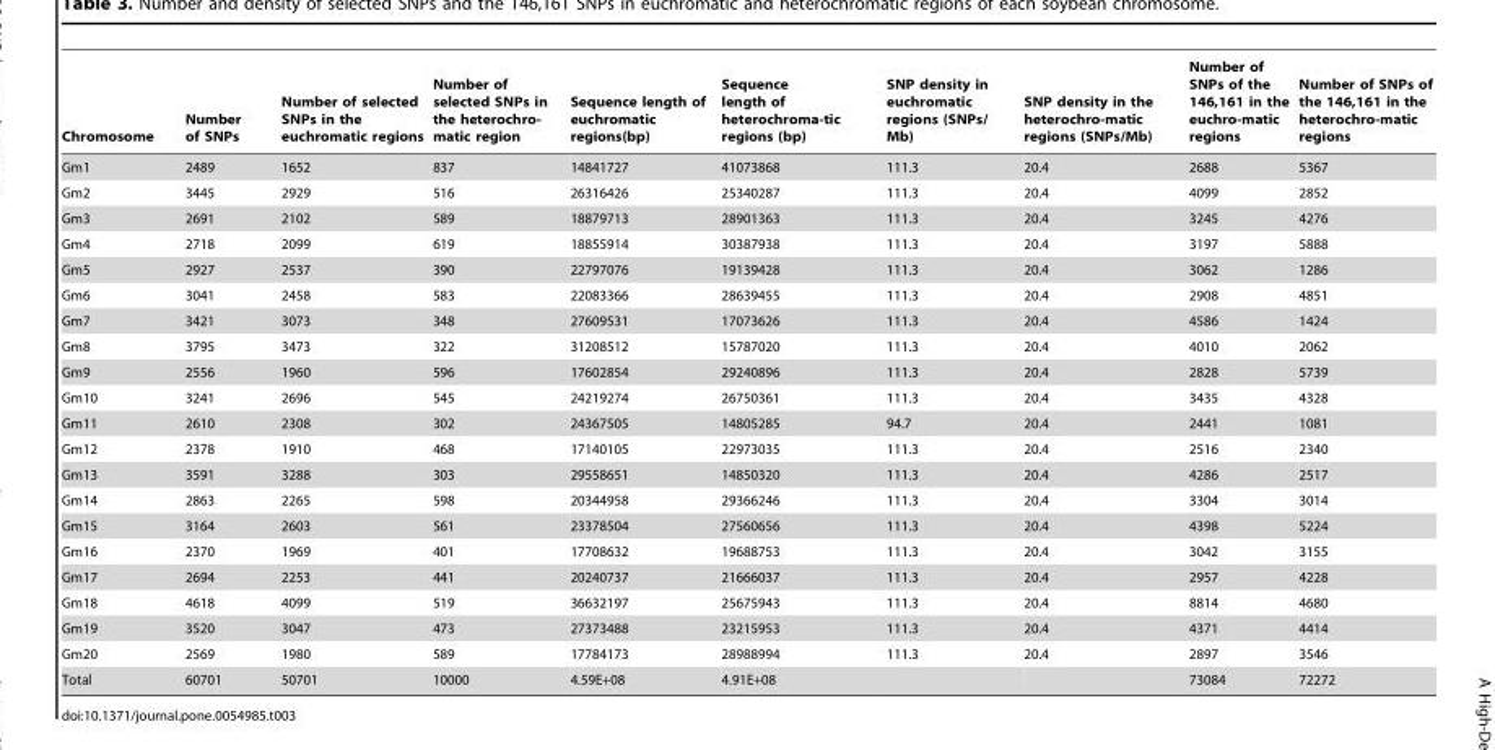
<table><thead><tr><td>Chromosome</td><td>Number of SNPs</td><td>Number of selected SNPs in the euchromatic regions</td><td>Number of selected SNPs in the heterochro- matic region</td><td>Sequence length of euchromatic regions(bp)</td><td>Sequence length of heterochroma-tic regions (bp)</td><td>SNP density in euchromatic regions (SNPs/ Mb)</td><td>SNP density in the heterochro-matic regions (SNPs/Mb)</td><td>Number of SNPs of the 146,161 in the euchro-matic regions</td><td>Number of SNPs of the 146,161 in the heterochro-matic regions</td></tr></thead><tbody><tr><td>Gm1</td><td>2489</td><td>1652</td><td>837</td><td>14841727</td><td>41073868</td><td>111.3</td><td>20.4</td><td>2688</td><td>5367</td></tr><tr><td>Gm2</td><td>3445</td><td>2929</td><td>516</td><td>26316426</td><td>25340287</td><td>111.3</td><td>20.4</td><td>4099</td><td>2852</td></tr><tr><td>Gm3</td><td>2691</td><td>2102</td><td>589</td><td>18879713</td><td>28901363</td><td>111.3</td><td>20.4</td><td>3245</td><td>4276</td></tr><tr><td>Gm4</td><td>2718</td><td>2099</td><td>619</td><td>18855914</td><td>30387938</td><td>111.3</td><td>20.4</td><td>3197</td><td>5888</td></tr><tr><td>Gm5</td><td>2927</td><td>2537</td><td>390</td><td>22797076</td><td>19139428</td><td>111.3</td><td>20.4</td><td>3062</td><td>1286</td></tr><tr><td>Gm6</td><td>3041</td><td>2458</td><td>583</td><td>22083366</td><td>28639455</td><td>111.3</td><td>20.4</td><td>2908</td><td>4851</td></tr><tr><td>Gm7</td><td>3421</td><td>3073</td><td>348</td><td>27609531</td><td>17073626</td><td>111.3</td><td>20.4</td><td>4586</td><td>1424</td></tr><tr><td>Gm8</td><td>3795</td><td>3473</td><td>322</td><td>31208512</td><td>15787020</td><td>111.3</td><td>20.4</td><td>4010</td><td>2062</td></tr><tr><td>Gm9</td><td>2556</td><td>1960</td><td>596</td><td>17602854</td><td>29240896</td><td>111.3</td><td>20.4</td><td>2828</td><td>5739</td></tr><tr><td>Gm10</td><td>3241</td><td>2696</td><td>545</td><td>24219274</td><td>26750361</td><td>111.3</td><td>20.4</td><td>3435</td><td>4328</td></tr><tr><td>Gm11</td><td>2610</td><td>2308</td><td>302</td><td>24367505</td><td>14805285</td><td>94.7</td><td>20.4</td><td>2441</td><td>1081</td></tr><tr><td>Gm12</td><td>2378</td><td>1910</td><td>468</td><td>17140105</td><td>22973035</td><td>111.3</td><td>20.4</td><td>2516</td><td>2340</td></tr><tr><td>Gm13</td><td>3591</td><td>3288</td><td>303</td><td>29558651</td><td>14850320</td><td>111.3</td><td>20.4</td><td>4286</td><td>2517</td></tr><tr><td>Gm14</td><td>2863</td><td>2265</td><td>598</td><td>20344958</td><td>29366246</td><td>111.3</td><td>20.4</td><td>3304</td><td>3014</td></tr><tr><td>Gm15</td><td>3164</td><td>2603</td><td>561</td><td>23378504</td><td>27560656</td><td>111.3</td><td>20.4</td><td>4398</td><td>5224</td></tr><tr><td>Gm16</td><td>2370</td><td>1969</td><td>401</td><td>17708632</td><td>19688753</td><td>111.3</td><td>20.4</td><td>3042</td><td>3155</td></tr><tr><td>Gm17</td><td>2694</td><td>2253</td><td>441</td><td>20240737</td><td>21666037</td><td>111.3</td><td>20.4</td><td>2957</td><td>4228</td></tr><tr><td>Gm18</td><td>4618</td><td>4099</td><td>519</td><td>36632197</td><td>25675943</td><td>111.3</td><td>20.4</td><td>8814</td><td>4680</td></tr><tr><td>Gm19</td><td>3520</td><td>3047</td><td>473</td><td>27373488</td><td>23215953</td><td>111.3</td><td>20.4</td><td>4371</td><td>4414</td></tr><tr><td>Gm20</td><td>2569</td><td>1980</td><td>589</td><td>17784173</td><td>28988994</td><td>111.3</td><td>20.4</td><td>2897</td><td>3546</td></tr><tr><td>Total</td><td>60701</td><td>50701</td><td>10000</td><td>4.59E+08</td><td>4.91E+08</td><td></td><td></td><td>73084</td><td>72272</td></tr></tbody></table>